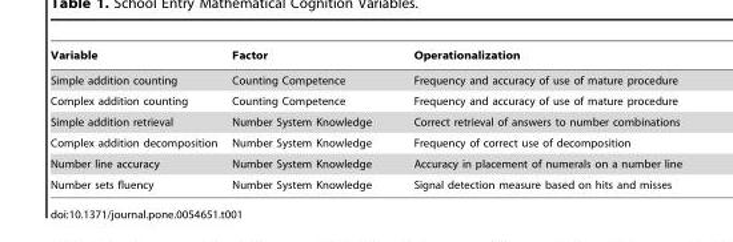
<table><thead><tr><td>Variable</td><td>Factor</td><td>Operationalization</td></tr></thead><tbody><tr><td>Simple addition counting</td><td>Counting Competence</td><td>Frequency and accuracy of use of mature procedure</td></tr><tr><td>Complex addition counting</td><td>Counting Competence</td><td>Frequency and accuracy of use of mature procedure</td></tr><tr><td>Simple addition retrieval</td><td>Number System Knowledge</td><td>Correct retrieval of answers to number combinations</td></tr><tr><td>Complex addition decomposition</td><td>Number System Knowledge</td><td>Frequency of correct use of decomposition</td></tr><tr><td>Number line accuracy</td><td>Number System Knowledge</td><td>Accuracy in placement of numerals on a number line</td></tr><tr><td>Number sets fluency</td><td>Number System Knowledge</td><td>Signal detection measure based on hits and misses</td></tr></tbody></table>